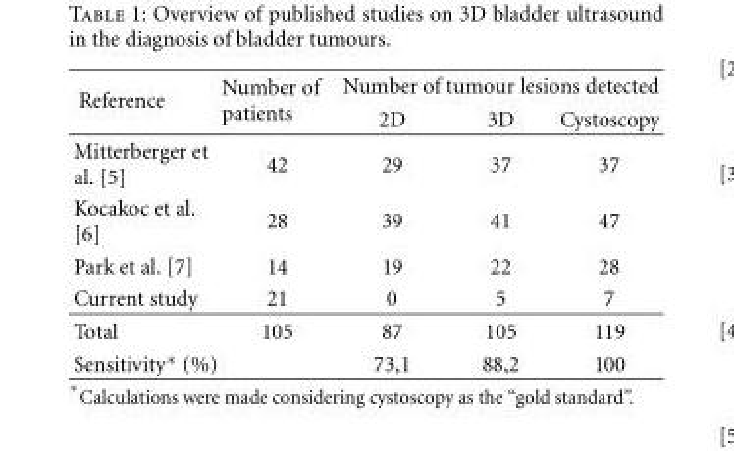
<table><thead><tr><td rowspan="2">Reference</td><td rowspan="2">Number of patients</td><td colspan="3">Number of tumour lesions detected</td></tr><tr><td>2D</td><td>3D</td><td>Cystoscopy</td></tr></thead><tbody><tr><td>Mitterberger et al. [5]</td><td>42</td><td>29</td><td>37</td><td>37</td></tr><tr><td>Kocakoc et al. [6]</td><td>28</td><td>39</td><td>41</td><td>47</td></tr><tr><td>Park et al. [7]</td><td>14</td><td>19</td><td>22</td><td>28</td></tr><tr><td>Current study</td><td>21</td><td>0</td><td>5</td><td>7</td></tr><tr><td>Total</td><td>105</td><td>87</td><td>105</td><td>119</td></tr><tr><td>Sensitivity∗ (%)</td><td></td><td>73,1</td><td>88,2</td><td>100</td></tr></tbody></table>